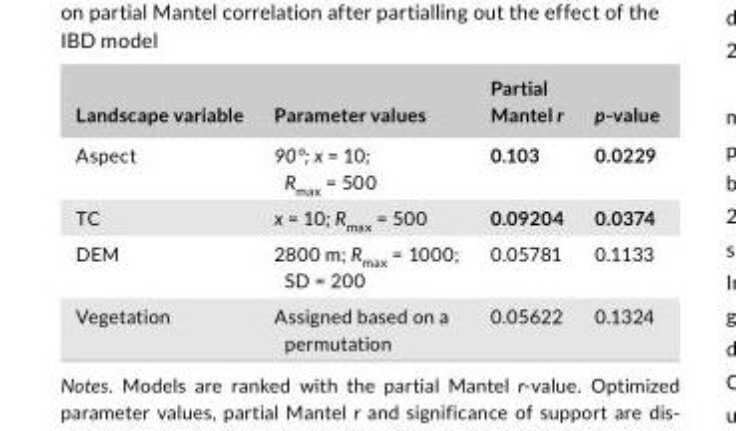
<table><thead><tr><td>Landscape variable</td><td>Parameter values</td><td>Partial Mantel r</td><td>p- value</td></tr></thead><tbody><tr><td>Aspect</td><td>90°; x = 10; R<sub>max</sub> = 500</td><td>0.103</td><td>0.0229</td></tr><tr><td>TC</td><td>x = 10; R<sub>max</sub> = 500</td><td>0.09204</td><td>0.0374</td></tr><tr><td>DEM</td><td>2800 m; R<sub>max</sub> = 1000; SD = 200</td><td>0.05781</td><td>0.1133</td></tr><tr><td>Vegetation</td><td>Assigned based on a permutation</td><td>0.05622</td><td>0.1324</td></tr></tbody></table>